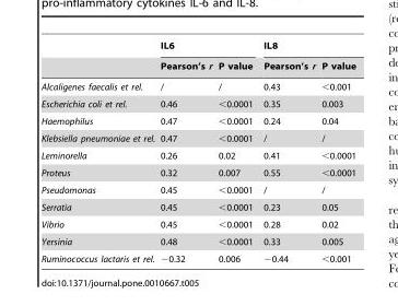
<table><thead><tr><td rowspan="2"></td><td colspan="2">IL6</td><td colspan="2">IL8</td></tr><tr><td>Pearson’s r</td><td>P value</td><td>Pearson’s r</td><td>P value</td></tr></thead><tbody><tr><td>Alcaligenes faecalis et rel.</td><td>/</td><td>/</td><td>0.43</td><td>&lt;0.001</td></tr><tr><td>Escherichia coli et rel.</td><td>0.46</td><td>&lt;0.0001</td><td>0.35</td><td>0.003</td></tr><tr><td>Haemophilus</td><td>0.47</td><td>&lt;0.0001</td><td>0.24</td><td>0.04</td></tr><tr><td>Klebsiella pneumoniae et rel.</td><td>0.47</td><td>&lt;0.0001</td><td>/</td><td>/</td></tr><tr><td>Leminorella</td><td>0.26</td><td>0.02</td><td>0.41</td><td>&lt;0.0001</td></tr><tr><td>Proteus</td><td>0.32</td><td>0.007</td><td>0.55</td><td>&lt;0.0001</td></tr><tr><td>Pseudomonas</td><td>0.45</td><td>&lt;0.0001</td><td>/</td><td>/</td></tr><tr><td>Serratia</td><td>0.45</td><td>&lt;0.0001</td><td>0.23</td><td>0.05</td></tr><tr><td>Vibrio</td><td>0.45</td><td>&lt;0.0001</td><td>0.28</td><td>0.02</td></tr><tr><td>Yersinia</td><td>0.48</td><td>&lt;0.0001</td><td>0.33</td><td>0.005</td></tr><tr><td>Ruminococcus lactaris et rel.</td><td>−0.32</td><td>0.006</td><td>−0.44</td><td>&lt;0.001</td></tr></tbody></table>